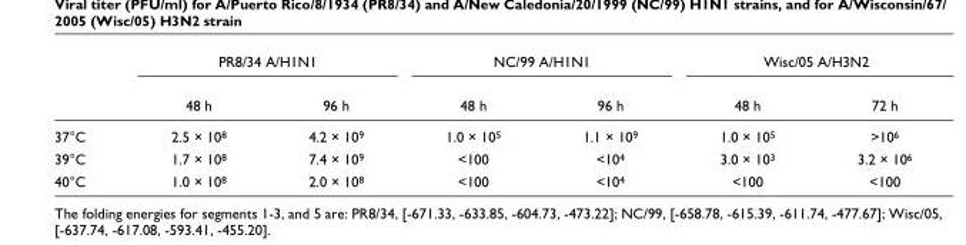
<table><thead><tr><td rowspan="2"></td><td colspan="2">PR8/34 A/H1N1</td><td colspan="2">NC/99 A/H1N1</td><td colspan="2">Wisc/05 A/H3N2</td></tr><tr><td>48 h</td><td>96 h</td><td>48 h</td><td>96 h</td><td>48 h</td><td>72 h</td></tr></thead><tbody><tr><td>37°C</td><td>2.5 × 10<sup>8</sup></td><td>4.2 × 10<sup>9</sup></td><td>1.0 × 10<sup>5</sup></td><td>1.1 × 10<sup>9</sup></td><td>1.0 × 10<sup>5</sup></td><td>&gt;10<sup>6</sup></td></tr><tr><td>39°C</td><td>1.7 × 10<sup>8</sup></td><td>7.4 × 10<sup>9</sup></td><td>&lt;100</td><td>&lt;10<sup>4</sup></td><td>3.0 × 10<sup>3</sup></td><td>3.2 × 10<sup>6</sup></td></tr><tr><td>40°C</td><td>1.0 × 10<sup>8</sup></td><td>2.0 × 10<sup>8</sup></td><td>&lt;100</td><td>&lt;10<sup>4</sup></td><td>&lt;100</td><td>&lt;100</td></tr></tbody></table>